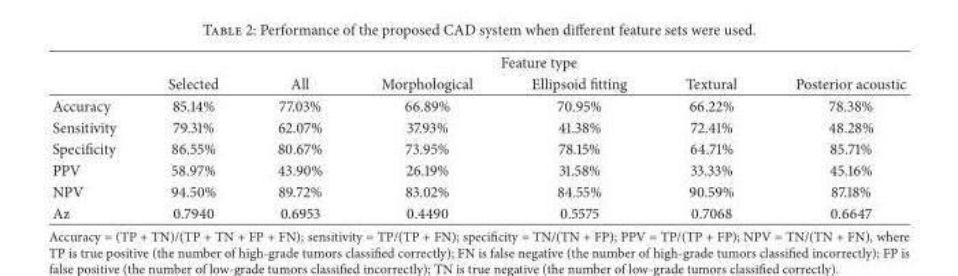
<table><thead><tr><td rowspan="2"></td><td colspan="6">Feature type</td></tr><tr><td>Selected</td><td>All</td><td>Morphological</td><td>Ellipsoid fitting</td><td>Textural</td><td>Posterior acoustic</td></tr></thead><tbody><tr><td>Accuracy</td><td>85.14%</td><td>77.03%</td><td>66.89%</td><td>70.95%</td><td>66.22%</td><td>78.38%</td></tr><tr><td>Sensitivity</td><td>79.31%</td><td>62.07%</td><td>37.93%</td><td>41.38%</td><td>72.41%</td><td>48.28%</td></tr><tr><td>Specificity</td><td>86.55%</td><td>80.67%</td><td>73.95%</td><td>78.15%</td><td>64.71%</td><td>85.71%</td></tr><tr><td>PPV</td><td>58.97%</td><td>43.90%</td><td>26.19%</td><td>31.58%</td><td>33.33%</td><td>45.16%</td></tr><tr><td>NPV</td><td>94.50%</td><td>89.72%</td><td>83.02%</td><td>84.55%</td><td>90.59%</td><td>87.18%</td></tr><tr><td>Az</td><td>0.7940</td><td>0.6953</td><td>0.4490</td><td>0.5575</td><td>0.7068</td><td>0.6647</td></tr></tbody></table>